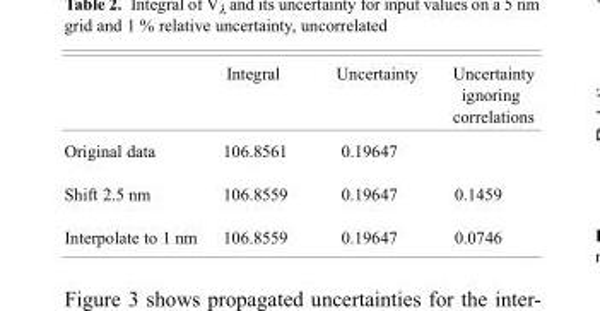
<table><thead><tr><td></td><td>Integral</td><td>Uncertainty</td><td>Uncertainty ignoring correlations</td></tr></thead><tbody><tr><td>Original data</td><td>106.8561</td><td>0.19647</td><td></td></tr><tr><td>Shift 2.5 nm</td><td>106.8559</td><td>0.19647</td><td>0.1459</td></tr><tr><td>Interpolate to 1 nm</td><td>106.8559</td><td>0.19647</td><td>0.0746</td></tr></tbody></table>